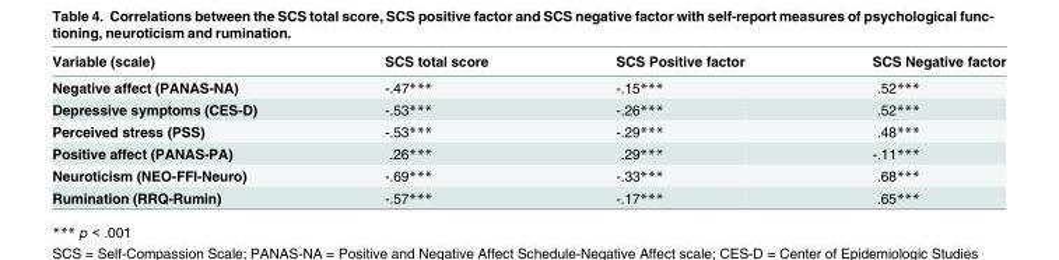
<table><thead><tr><td>Variable (scale)</td><td>SCS total score</td><td>SCS Positive factor</td><td>SCS Negative factor</td></tr></thead><tbody><tr><td>Negative affect (PANAS-NA)</td><td>-.47***</td><td>-.15***</td><td>.52***</td></tr><tr><td>Depressive symptoms (CES-D)</td><td>-.53***</td><td>-.26***</td><td>.52***</td></tr><tr><td>Perceived stress (PSS)</td><td>-.53***</td><td>-.29***</td><td>.48***</td></tr><tr><td>Positive affect (PANAS-PA)</td><td>.26***</td><td>.29***</td><td>-.11***</td></tr><tr><td>Neuroticism (NEO-FFI-Neuro)</td><td>-.69***</td><td>-.33***</td><td>.68***</td></tr><tr><td>Rumination (RRQ-Rumin)</td><td>-.57***</td><td>-.17***</td><td>.65***</td></tr></tbody></table>